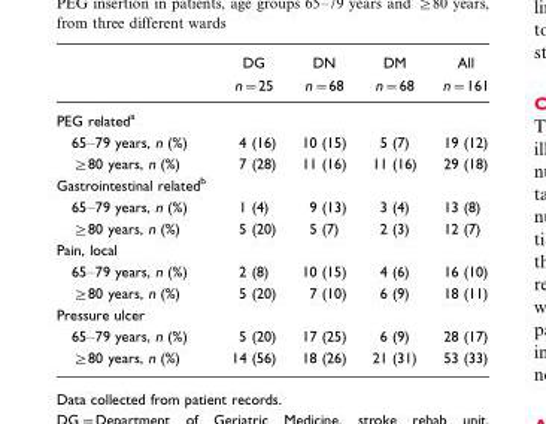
<table><thead><tr><td></td><td>DG n=25</td><td>DN n=68</td><td>DM n=68</td><td>All n=161</td></tr></thead><tbody><tr><td colspan="5">PEG related<sup>a</sup></td></tr><tr><td>65–79 years, n (%)</td><td>4 (16)</td><td>10 (15)</td><td>5 (7)</td><td>19 (12)</td></tr><tr><td>≥80 years, n (%)</td><td>7 (28)</td><td>11 (16)</td><td>11 (16)</td><td>29 (18)</td></tr><tr><td colspan="5">Gastrointestinal related<sup>b</sup></td></tr><tr><td>65–79 years, n (%)</td><td>1 (4)</td><td>9 (13)</td><td>3 (4)</td><td>13 (8)</td></tr><tr><td>≥80 years, n (%)</td><td>5 (20)</td><td>5 (7)</td><td>2 (3)</td><td>12 (7)</td></tr><tr><td colspan="5">Pain, local</td></tr><tr><td>65–79 years, n (%)</td><td>2 (8)</td><td>10 (15)</td><td>4 (6)</td><td>16 (10)</td></tr><tr><td>≥80 years, n (%)</td><td>5 (20)</td><td>7 (10)</td><td>6 (9)</td><td>18 (11)</td></tr><tr><td colspan="5">Pressure ulcer</td></tr><tr><td>65–79 years, n (%)</td><td>5 (20)</td><td>17 (25)</td><td>6 (9)</td><td>28 (17)</td></tr><tr><td>≥80 years, n (%)</td><td>14 (56)</td><td>18 (26)</td><td>21 (31)</td><td>53 (33)</td></tr></tbody></table>